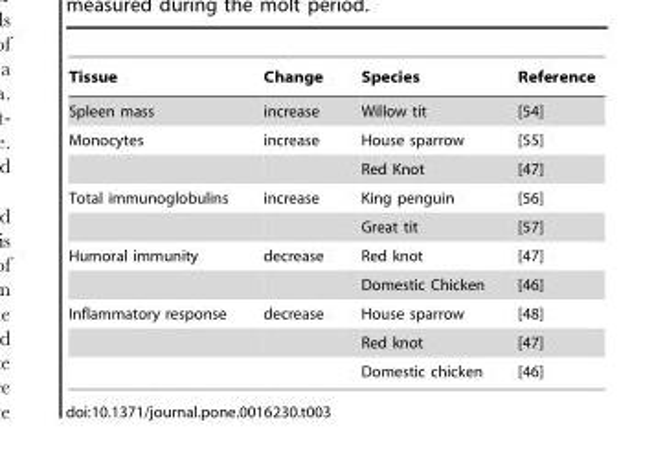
<table><thead><tr><td>Tissue</td><td>Change</td><td>Species</td><td>Reference</td></tr></thead><tbody><tr><td>Spleen mass</td><td>increase</td><td>Willow tit</td><td>[54]</td></tr><tr><td rowspan="2">Monocytes</td><td>increase</td><td>House sparrow</td><td>[55]</td></tr><tr><td></td><td>Red Knot</td><td>[47]</td></tr><tr><td rowspan="2">Total immunoglobulins</td><td>increase</td><td>King penguin</td><td>[56]</td></tr><tr><td></td><td>Great tit</td><td>[57]</td></tr><tr><td rowspan="2">Humoral immunity</td><td>decrease</td><td>Red knot</td><td>[47]</td></tr><tr><td></td><td>Domestic Chicken</td><td>[46]</td></tr><tr><td rowspan="3">Inflammatory response</td><td>decrease</td><td>House sparrow</td><td>[48]</td></tr><tr><td></td><td>Red knot</td><td>[47]</td></tr><tr><td></td><td>Domestic chicken</td><td>[46]</td></tr></tbody></table>